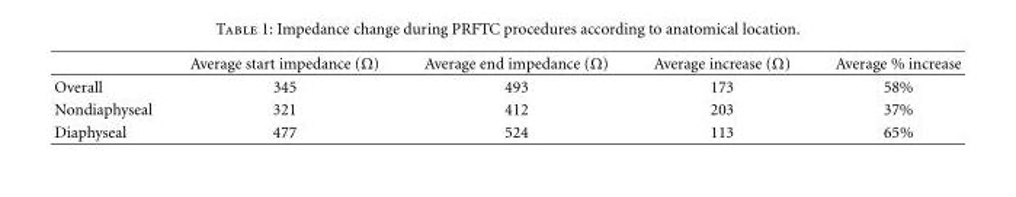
<table><thead><tr><td></td><td>Average start impedance (Ω)</td><td>Average end impedance (Ω)</td><td>Average increase (Ω)</td><td>Average % increase</td></tr></thead><tbody><tr><td>Overall</td><td>345</td><td>493</td><td>173</td><td>58%</td></tr><tr><td>Nondiaphyseal</td><td>321</td><td>412</td><td>203</td><td>37%</td></tr><tr><td>Diaphyseal</td><td>477</td><td>524</td><td>113</td><td>65%</td></tr></tbody></table>